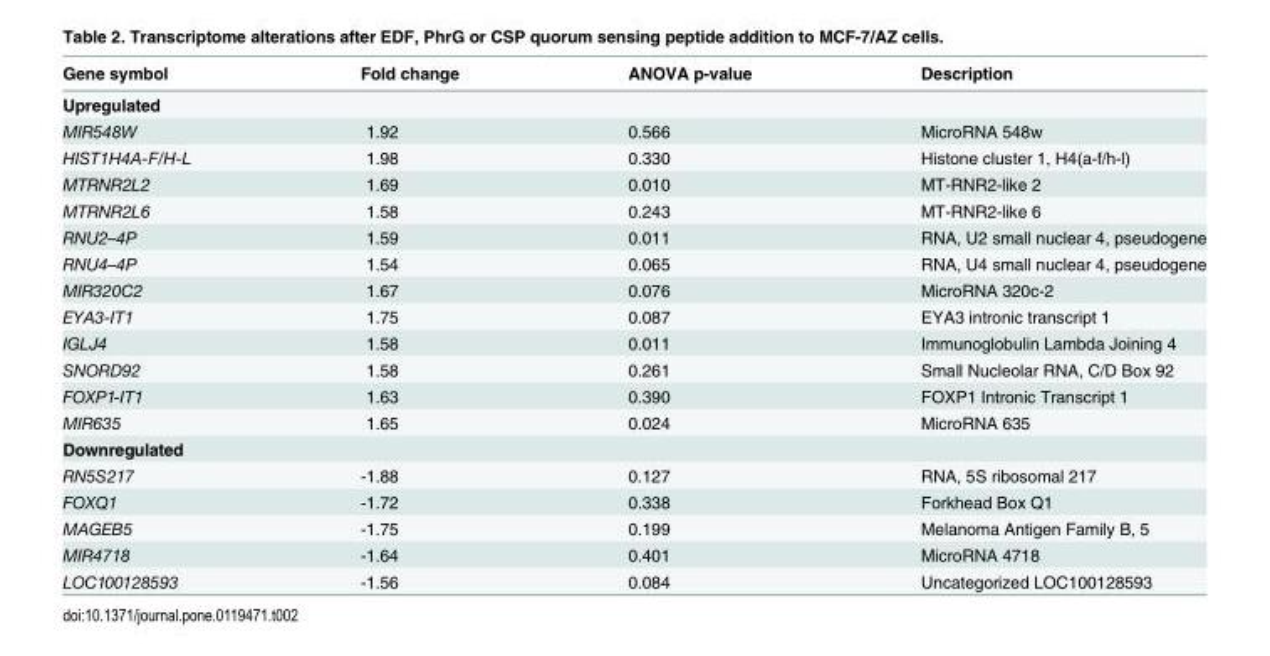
<table><thead><tr><td>Gene symbol</td><td>Fold change</td><td>ANOVA p-value</td><td>Description</td></tr></thead><tbody><tr><td colspan="4">Upregulated</td></tr><tr><td>MIR548W</td><td>1.92</td><td>0.566</td><td>MicroRNA 548w</td></tr><tr><td>HIST1H4A-F/H-L</td><td>1.98</td><td>0.330</td><td>Histone cluster 1, H4(a-f/h-l)</td></tr><tr><td>MTRNR2L2</td><td>1.69</td><td>0.010</td><td>MT-RNR2-like 2</td></tr><tr><td>MTRNR2L6</td><td>1.58</td><td>0.243</td><td>MT-RNR2-like 6</td></tr><tr><td>RNU2–4P</td><td>1.59</td><td>0.011</td><td>RNA, U2 small nuclear 4, pseudogene</td></tr><tr><td>RNU4–4P</td><td>1.54</td><td>0.065</td><td>RNA, U4 small nuclear 4, pseudogene</td></tr><tr><td>MIR320C2</td><td>1.67</td><td>0.076</td><td>MicroRNA 320c-2</td></tr><tr><td>EYA3-IT1</td><td>1.75</td><td>0.087</td><td>EYA3 intronic transcript 1</td></tr><tr><td>IGLJ4</td><td>1.58</td><td>0.011</td><td>Immunoglobulin Lambda Joining 4</td></tr><tr><td>SNORD92</td><td>1.58</td><td>0.261</td><td>Small Nucleolar RNA, C/D Box 92</td></tr><tr><td>FOXP1-IT1</td><td>1.63</td><td>0.390</td><td>FOXP1 Intronic Transcript 1</td></tr><tr><td>MIR635</td><td>1.65</td><td>0.024</td><td>MicroRNA 635</td></tr><tr><td colspan="4">Downregulated</td></tr><tr><td>RN5S217</td><td>-1.88</td><td>0.127</td><td>RNA, 5S ribosomal 217</td></tr><tr><td>FOXQ1</td><td>-1.72</td><td>0.338</td><td>Forkhead Box Q1</td></tr><tr><td>MAGEB5</td><td>-1.75</td><td>0.199</td><td>Melanoma Antigen Family B, 5</td></tr><tr><td>MIR4718</td><td>-1.64</td><td>0.401</td><td>MicroRNA 4718</td></tr><tr><td>LOC100128593</td><td>-1.56</td><td>0.084</td><td>Uncategorized LOC100128593</td></tr></tbody></table>